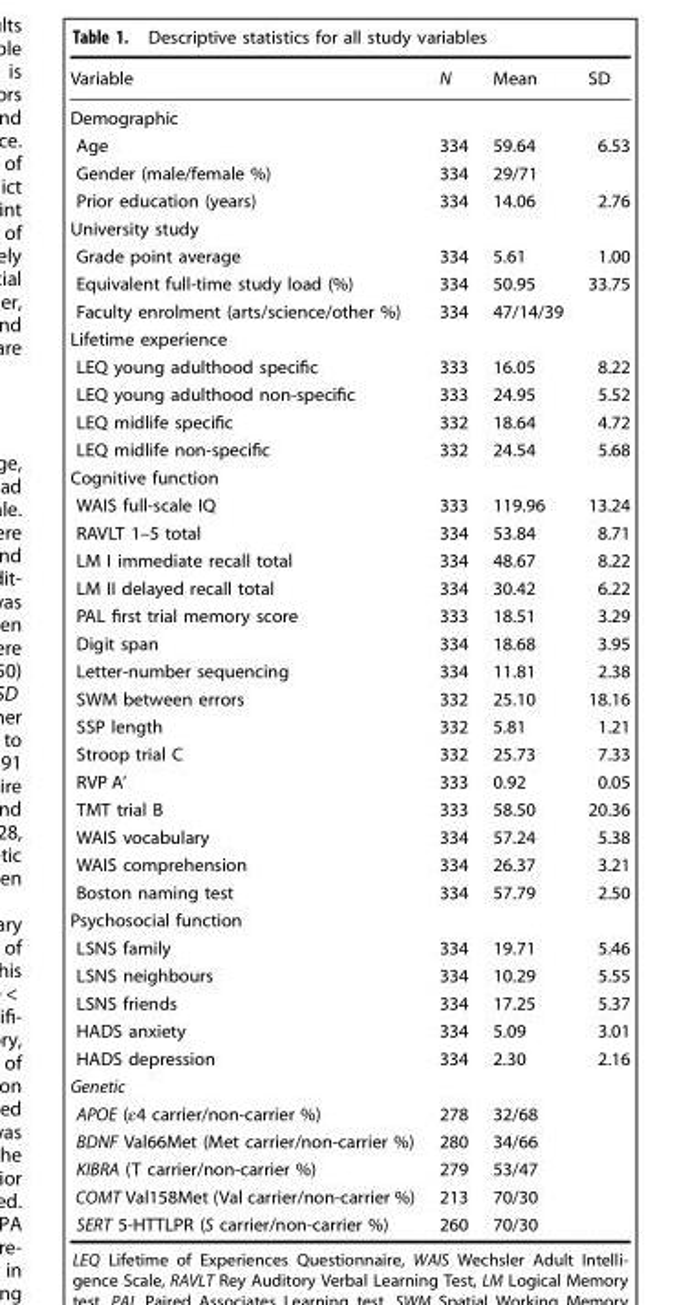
<table><thead><tr><td>Variable</td><td>N</td><td>Mean</td><td>SD</td></tr></thead><tbody><tr><td colspan="4">Demographic</td></tr><tr><td>Age</td><td>334</td><td>59.64</td><td>6.53</td></tr><tr><td>Gender (male/female %)</td><td>334</td><td>29/71</td><td></td></tr><tr><td>Prior education (years)</td><td>334</td><td>14.06</td><td>2.76</td></tr><tr><td colspan="4">University study</td></tr><tr><td>Grade point average</td><td>334</td><td>5.61</td><td>1.00</td></tr><tr><td>Equivalent full-time study load (%)</td><td>334</td><td>50.95</td><td>33.75</td></tr><tr><td>Faculty enrolment (arts/science/other %)</td><td>334</td><td>47/14/39</td><td></td></tr><tr><td colspan="4">Lifetime experience</td></tr><tr><td>LEQ young adulthood specific</td><td>333</td><td>16.05</td><td>8.22</td></tr><tr><td>LEQ young adulthood non-specific</td><td>333</td><td>24.95</td><td>5.52</td></tr><tr><td>LEQ midlife specific</td><td>332</td><td>18.64</td><td>4.72</td></tr><tr><td>LEQ midlife non-specific</td><td>332</td><td>24.54</td><td>5.68</td></tr><tr><td colspan="4">Cognitive function</td></tr><tr><td>WAIS full-scale IQ</td><td>333</td><td>119.96</td><td>13.24</td></tr><tr><td>RAVLT 1–5 total</td><td>334</td><td>53.84</td><td>8.71</td></tr><tr><td>LM I immediate recall total</td><td>334</td><td>48.67</td><td>8.22</td></tr><tr><td>LM II delayed recall total</td><td>334</td><td>30.42</td><td>6.22</td></tr><tr><td>PAL first trial memory score</td><td>333</td><td>18.51</td><td>3.29</td></tr><tr><td>Digit span</td><td>334</td><td>18.68</td><td>3.95</td></tr><tr><td>Letter-number sequencing</td><td>334</td><td>11.81</td><td>2.38</td></tr><tr><td>SWM between errors</td><td>332</td><td>25.10</td><td>18.16</td></tr><tr><td>SSP length</td><td>332</td><td>5.81</td><td>1.21</td></tr><tr><td>Stroop trial C</td><td>332</td><td>25.73</td><td>7.33</td></tr><tr><td>RVP A’</td><td>333</td><td>0.92</td><td>0.05</td></tr><tr><td>TMT trial B</td><td>333</td><td>58.50</td><td>20.36</td></tr><tr><td>WAIS vocabulary</td><td>334</td><td>57.24</td><td>5.38</td></tr><tr><td>WAIS comprehension</td><td>334</td><td>26.37</td><td>3.21</td></tr><tr><td>Boston naming test</td><td>334</td><td>57.79</td><td>2.50</td></tr><tr><td colspan="4">Psychosocial function</td></tr><tr><td>LSNS family</td><td>334</td><td>19.71</td><td>5.46</td></tr><tr><td>LSNS neighbours</td><td>334</td><td>10.29</td><td>5.55</td></tr><tr><td>LSNS friends</td><td>334</td><td>17.25</td><td>5.37</td></tr><tr><td>HADS anxiety</td><td>334</td><td>5.09</td><td>3.01</td></tr><tr><td>HADS depression</td><td>334</td><td>2.30</td><td>2.16</td></tr><tr><td colspan="4">Genetic</td></tr><tr><td>APOE (ε4 carrier/non-carrier %)</td><td>278</td><td>32/68</td><td></td></tr><tr><td>BDNF Val66Met (Met carrier/non-carrier %)</td><td>280</td><td>34/66</td><td></td></tr><tr><td>KIBRA (T carrier/non-carrier %)</td><td>279</td><td>53/47</td><td></td></tr><tr><td>COMT Val158Met (Val carrier/non-carrier %)</td><td>213</td><td>70/30</td><td></td></tr><tr><td>SERT 5-HTTLPR (S carrier/non-carrier %)</td><td>260</td><td>70/30</td><td></td></tr></tbody></table>